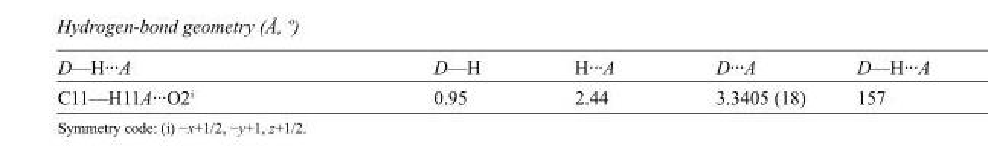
<table><tbody><tr><td>D—H···A</td><td>D—H</td><td>H···A</td><td>D···A</td><td>D—H···A</td></tr><tr><td>C11—H11A···O2<sup>i</sup></td><td>0.95</td><td>2.44</td><td>3.3405 (18)</td><td>157</td></tr></tbody></table>